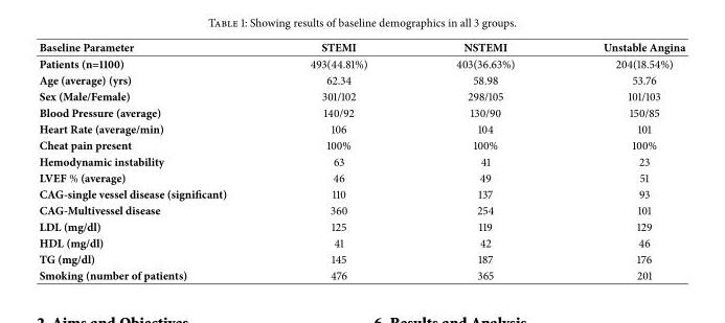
<table><thead><tr><td>Baseline Parameter</td><td>STEMI</td><td>NSTEMI</td><td>Unstable Angina</td></tr></thead><tbody><tr><td>Patients (n=1100)</td><td>493(44.81%)</td><td>403(36.63%)</td><td>204(18.54%)</td></tr><tr><td>Age (average) (yrs)</td><td>62.34</td><td>58.98</td><td>53.76</td></tr><tr><td>Sex (Male/Female)</td><td>301/102</td><td>298/105</td><td>101/103</td></tr><tr><td>Blood Pressure (average)</td><td>140/92</td><td>130/90</td><td>150/85</td></tr><tr><td>Heart Rate (average/min)</td><td>106</td><td>104</td><td>101</td></tr><tr><td>Cheat pain present</td><td>100%</td><td>100%</td><td>100%</td></tr><tr><td>Hemodynamic instability</td><td>63</td><td>41</td><td>23</td></tr><tr><td>LVEF % (average)</td><td>46</td><td>49</td><td>51</td></tr><tr><td>CAG-single vessel disease (significant)</td><td>110</td><td>137</td><td>93</td></tr><tr><td>CAG-Multivessel disease</td><td>360</td><td>254</td><td>101</td></tr><tr><td>LDL (mg/dl)</td><td>125</td><td>119</td><td>129</td></tr><tr><td>HDL (mg/dl)</td><td>41</td><td>42</td><td>46</td></tr><tr><td>TG (mg/dl)</td><td>145</td><td>187</td><td>176</td></tr><tr><td>Smoking (number of patients)</td><td>476</td><td>365</td><td>201</td></tr></tbody></table>